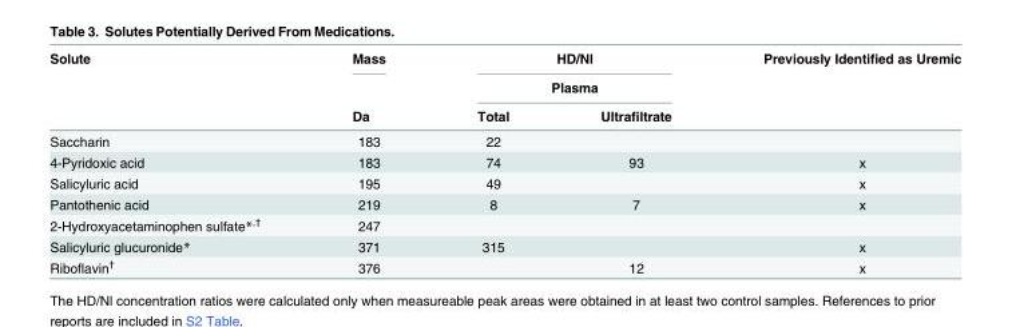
<table><thead><tr><td rowspan="3">Solute</td><td rowspan="3">Mass Da</td><td rowspan="2" colspan="2">HD/Nl Plasma</td><td rowspan="3">Previously Identified as Uremic</td></tr><tr></tr><tr><td>Total</td><td>Ultrafiltrate</td></tr></thead><tbody><tr><td>Saccharin</td><td>183</td><td>22</td><td></td><td></td></tr><tr><td>4-Pyridoxic acid</td><td>183</td><td>74</td><td>93</td><td>x</td></tr><tr><td>Salicyluric acid</td><td>195</td><td>49</td><td></td><td>x</td></tr><tr><td>Pantothenic acid</td><td>219</td><td>8</td><td>7</td><td>x</td></tr><tr><td>2-Hydroxyacetaminophen sulfate*<sup>,†</sup></td><td>247</td><td></td><td></td><td></td></tr><tr><td>Salicyluric glucuronide*</td><td>371</td><td>315</td><td></td><td>x</td></tr><tr><td>Riboflavin<sup>†</sup></td><td>376</td><td></td><td>12</td><td>x</td></tr></tbody></table>